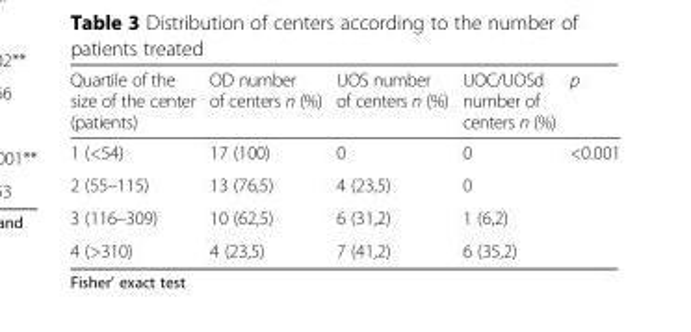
<table><thead><tr><td>Quartile of the size of the center (patients)</td><td>OD number of centers n (%)</td><td>UOS number of centers n (%)</td><td>UOC/UOSd number of centers n (%)</td><td>p</td></tr></thead><tbody><tr><td>1 (&lt;54)</td><td>17 (100)</td><td>0</td><td>0</td><td>&lt;0.001</td></tr><tr><td>2 (55–115)</td><td>13 (76,5)</td><td>4 (23,5)</td><td>0</td><td></td></tr><tr><td>3 (116–309)</td><td>10 (62,5)</td><td>6 (31,2)</td><td>1 (6,2)</td><td></td></tr><tr><td>4 (&gt;310)</td><td>4 (23,5)</td><td>7 (41,2)</td><td>6 (35,2)</td><td></td></tr></tbody></table>